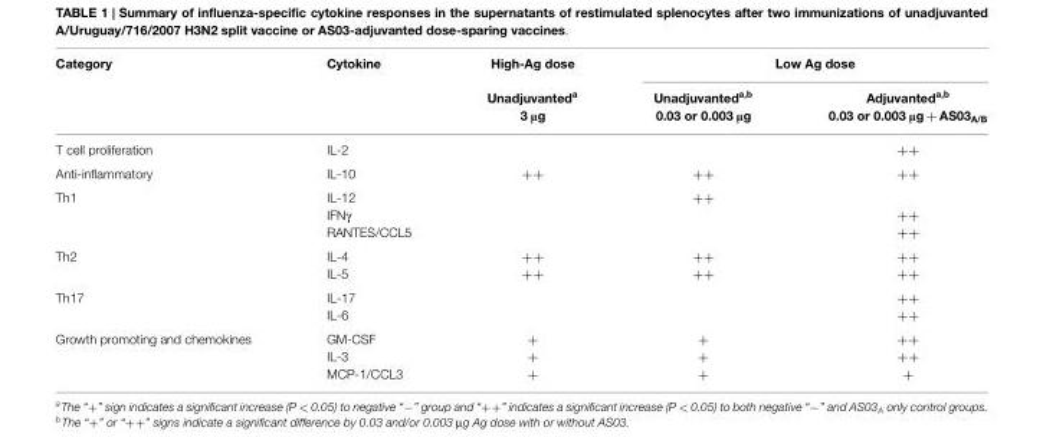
<table><thead><tr><td rowspan="3">Category</td><td rowspan="3">Cytokine</td><td rowspan="3">High-Ag dose Unadjuvanted<sup>a</sup> 3 μg</td><td colspan="2">Low Ag dose</td></tr><tr><td rowspan="2">Unadjuvanted<sup>a,b</sup> 0.03 or 0.003 μg</td><td rowspan="2">Adjuvanted<sup>a,b</sup> 0.03 or 0.003 μg + AS03<sub>A/B</sub></td></tr><tr></tr></thead><tbody><tr><td>T cell proliferation</td><td>IL-2</td><td></td><td></td><td>++</td></tr><tr><td>Anti-inflammatory</td><td>IL-10</td><td>++</td><td>++</td><td>++</td></tr><tr><td rowspan="3">Th1</td><td>IL-12</td><td></td><td>++</td><td></td></tr><tr><td>IFNγ</td><td></td><td></td><td>++</td></tr><tr><td>RANTES/CCL5</td><td></td><td></td><td>++</td></tr><tr><td rowspan="2">Th2</td><td>IL-4</td><td>++</td><td>++</td><td>++</td></tr><tr><td>IL-5</td><td>++</td><td>++</td><td>++</td></tr><tr><td rowspan="2">Th17</td><td>IL-17</td><td></td><td></td><td>++</td></tr><tr><td>IL-6</td><td></td><td></td><td>++</td></tr><tr><td rowspan="3">Growth promoting and chemokines</td><td>GM-CSF</td><td>+</td><td>+</td><td>++</td></tr><tr><td>IL-3</td><td>+</td><td>+</td><td>++</td></tr><tr><td>MCP-1/CCL3</td><td>+</td><td>+</td><td>+</td></tr></tbody></table>